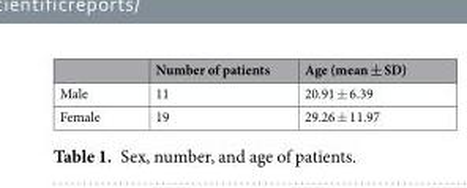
<table><thead><tr><td></td><td>Number of patients</td><td>Age (mean ± SD)</td></tr></thead><tbody><tr><td>Male</td><td>11</td><td>20.91 ± 6.39</td></tr><tr><td>Female</td><td>19</td><td>29.26 ± 11.97</td></tr></tbody></table>